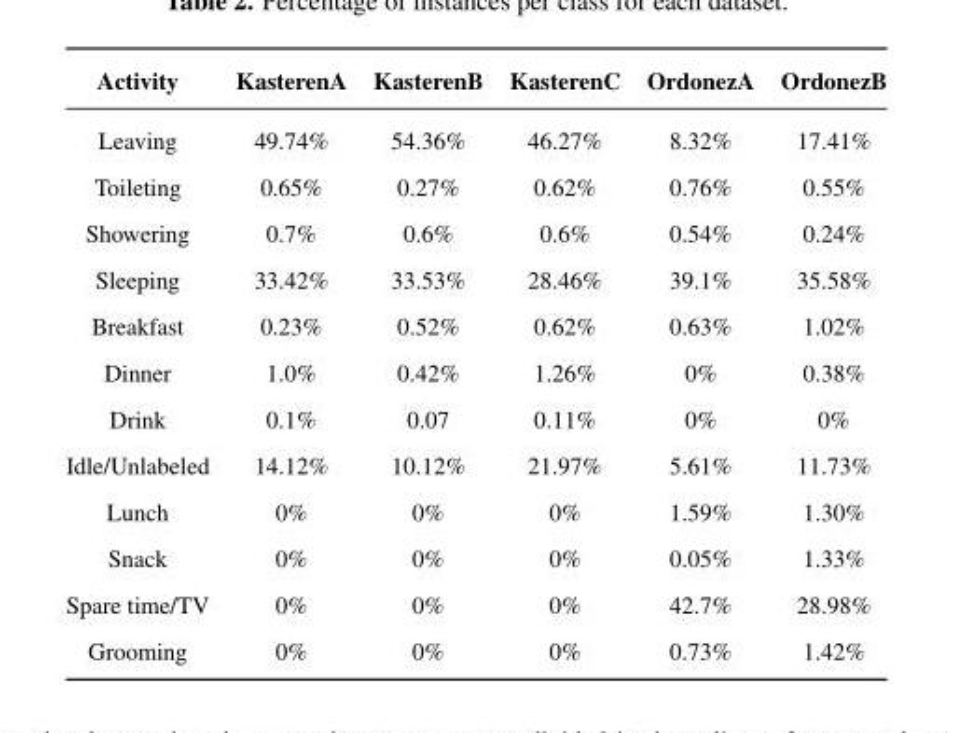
<table><thead><tr><td>Activity</td><td>KasterenA</td><td>KasterenB</td><td>KasterenC</td><td>OrdonezA</td><td>OrdonezB</td></tr></thead><tbody><tr><td>Leaving</td><td>49.74%</td><td>54.36%</td><td>46.27%</td><td>8.32%</td><td>17.41%</td></tr><tr><td>Toileting</td><td>0.65%</td><td>0.27%</td><td>0.62%</td><td>0.76%</td><td>0.55%</td></tr><tr><td>Showering</td><td>0.7%</td><td>0.6%</td><td>0.6%</td><td>0.54%</td><td>0.24%</td></tr><tr><td>Sleeping</td><td>33.42%</td><td>33.53%</td><td>28.46%</td><td>39.1%</td><td>35.58%</td></tr><tr><td>Breakfast</td><td>0.23%</td><td>0.52%</td><td>0.62%</td><td>0.63%</td><td>1.02%</td></tr><tr><td>Dinner</td><td>1.0%</td><td>0.42%</td><td>1.26%</td><td>0%</td><td>0.38%</td></tr><tr><td>Drink</td><td>0.1%</td><td>0.07</td><td>0.11%</td><td>0%</td><td>0%</td></tr><tr><td>Idle/Unlabeled</td><td>14.12%</td><td>10.12%</td><td>21.97%</td><td>5.61%</td><td>11.73%</td></tr><tr><td>Lunch</td><td>0%</td><td>0%</td><td>0%</td><td>1.59%</td><td>1.30%</td></tr><tr><td>Snack</td><td>0%</td><td>0%</td><td>0%</td><td>0.05%</td><td>1.33%</td></tr><tr><td>Spare time/TV</td><td>0%</td><td>0%</td><td>0%</td><td>42.7%</td><td>28.98%</td></tr><tr><td>Grooming</td><td>0%</td><td>0%</td><td>0%</td><td>0.73%</td><td>1.42%</td></tr></tbody></table>